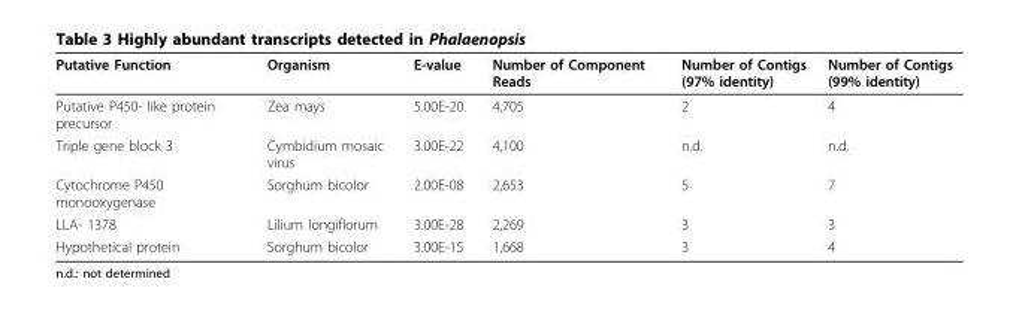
<table><thead><tr><td>Putative Function</td><td>Organism</td><td>E-value</td><td>Number of Component Reads</td><td>Number of Contigs (97% identity)</td><td>Number of Contigs (99% identity)</td></tr></thead><tbody><tr><td>Putative P450- like protein precursor</td><td>Zea mays</td><td>5.00E-20</td><td>4,705</td><td>2</td><td>4</td></tr><tr><td>Triple gene block 3</td><td>Cymbidium mosaic virus</td><td>3.00E-22</td><td>4,100</td><td>n.d.</td><td>n.d.</td></tr><tr><td>Cytochrome P450 monooxygenase</td><td>Sorghum bicolor</td><td>2.00E-08</td><td>2,653</td><td>5</td><td>7</td></tr><tr><td>LLA- 1378</td><td>Lilium longiflorum</td><td>3.00E-28</td><td>2,269</td><td>3</td><td>3</td></tr><tr><td>Hypothetical protein</td><td>Sorghum bicolor</td><td>3.00E-15</td><td>1,668</td><td>3</td><td>4</td></tr></tbody></table>